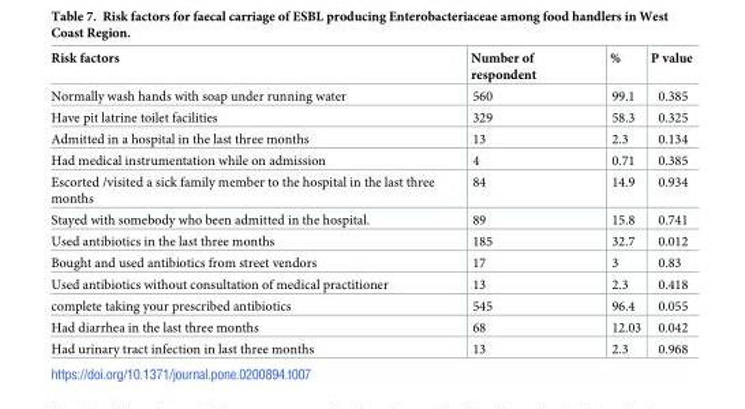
<table><thead><tr><td>Risk factors</td><td>Number of respondent</td><td>%</td><td>P value</td></tr></thead><tbody><tr><td>Normally wash hands with soap under running water</td><td>560</td><td>99.1</td><td>0.385</td></tr><tr><td>Have pit latrine toilet facilities</td><td>329</td><td>58.3</td><td>0.325</td></tr><tr><td>Admitted in a hospital in the last three months</td><td>13</td><td>2.3</td><td>0.134</td></tr><tr><td>Had medical instrumentation while on admission</td><td>4</td><td>0.71</td><td>0.385</td></tr><tr><td>Escorted /visited a sick family member to the hospital in the last three months</td><td>84</td><td>14.9</td><td>0.934</td></tr><tr><td>Stayed with somebody who been admitted in the hospital.</td><td>89</td><td>15.8</td><td>0.741</td></tr><tr><td>Used antibiotics in the last three months</td><td>185</td><td>32.7</td><td>0.012</td></tr><tr><td>Bought and used antibiotics from street vendors</td><td>17</td><td>3</td><td>0.83</td></tr><tr><td>Used antibiotics without consultation of medical practitioner</td><td>13</td><td>2.3</td><td>0.418</td></tr><tr><td>complete taking your prescribed antibiotics</td><td>545</td><td>96.4</td><td>0.055</td></tr><tr><td>Had diarrhea in the last three months</td><td>68</td><td>12.03</td><td>0.042</td></tr><tr><td>Had urinary tract infection in last three months</td><td>13</td><td>2.3</td><td>0.968</td></tr></tbody></table>